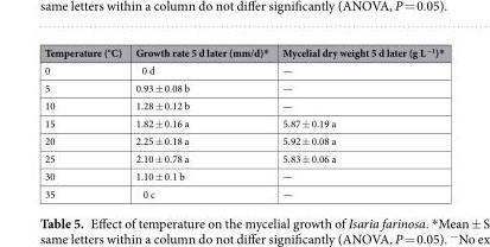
<table><thead><tr><td>Temperature (°C)</td><td>Growth rate 5 d later (mm/d)*</td><td>Mycelial dry weight 5 d later (g L<sup>−1</sup>)*</td></tr></thead><tbody><tr><td>0</td><td>0 d</td><td>—</td></tr><tr><td>5</td><td>0.93 ± 0.08 b</td><td>—</td></tr><tr><td>10</td><td>1.28 ± 0.12 b</td><td>—</td></tr><tr><td>15</td><td>1.82 ± 0.16 a</td><td>5.87 ± 0.19 a</td></tr><tr><td>20</td><td>2.25 ± 0.18 a</td><td>5.92 ± 0.08 a</td></tr><tr><td>25</td><td>2.10 ± 0.78 a</td><td>5.83 ± 0.06 a</td></tr><tr><td>30</td><td>1.10 ± 0.1 b</td><td>—</td></tr><tr><td>35</td><td>0 c</td><td>—</td></tr></tbody></table>